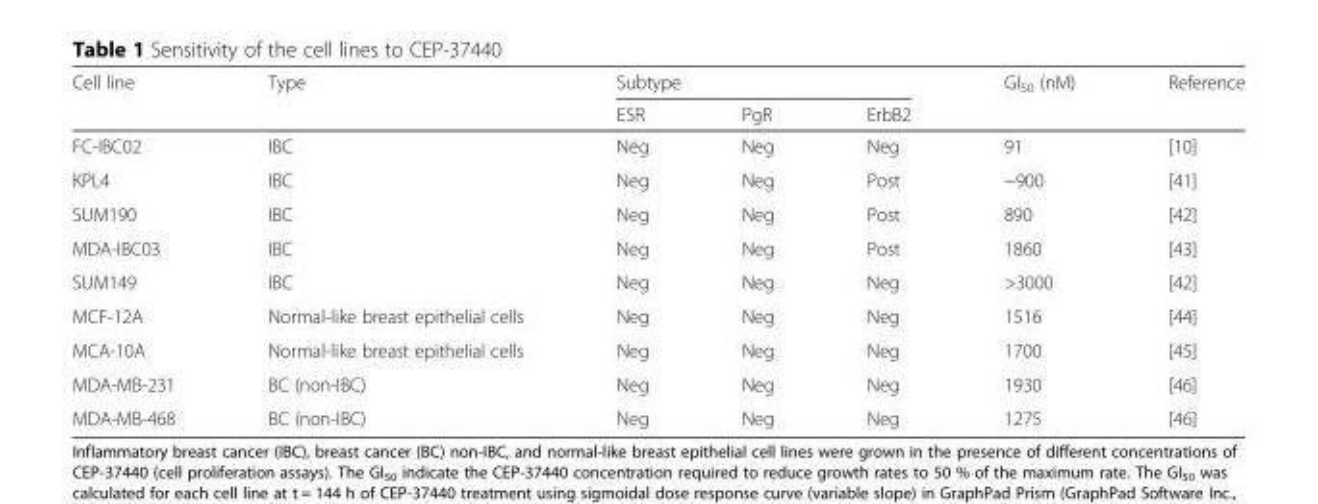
<table><thead><tr><td rowspan="2">Cell line</td><td rowspan="2">Type</td><td colspan="3">Subtype</td><td rowspan="2">GI<sub>50</sub> (nM)</td><td rowspan="2">Reference</td></tr><tr><td>ESR</td><td>PgR</td><td>ErbB2</td></tr></thead><tbody><tr><td>FC-IBC02</td><td>IBC</td><td>Neg</td><td>Neg</td><td>Neg</td><td>91</td><td>[10]</td></tr><tr><td>KPL4</td><td>IBC</td><td>Neg</td><td>Neg</td><td>Post</td><td>~900</td><td>[41]</td></tr><tr><td>SUM190</td><td>IBC</td><td>Neg</td><td>Neg</td><td>Post</td><td>890</td><td>[42]</td></tr><tr><td>MDA-IBC03</td><td>IBC</td><td>Neg</td><td>Neg</td><td>Post</td><td>1860</td><td>[43]</td></tr><tr><td>SUM149</td><td>IBC</td><td>Neg</td><td>Neg</td><td>Neg</td><td>&gt;3000</td><td>[42]</td></tr><tr><td>MCF-12A</td><td>Normal-like breast epithelial cells</td><td>Neg</td><td>Neg</td><td>Neg</td><td>1516</td><td>[44]</td></tr><tr><td>MCA-10A</td><td>Normal-like breast epithelial cells</td><td>Neg</td><td>Neg</td><td>Neg</td><td>1700</td><td>[45]</td></tr><tr><td>MDA-MB-231</td><td>BC (non-IBC)</td><td>Neg</td><td>Neg</td><td>Neg</td><td>1930</td><td>[46]</td></tr><tr><td>MDA-MB-468</td><td>BC (non-IBC)</td><td>Neg</td><td>Neg</td><td>Neg</td><td>1275</td><td>[46]</td></tr></tbody></table>